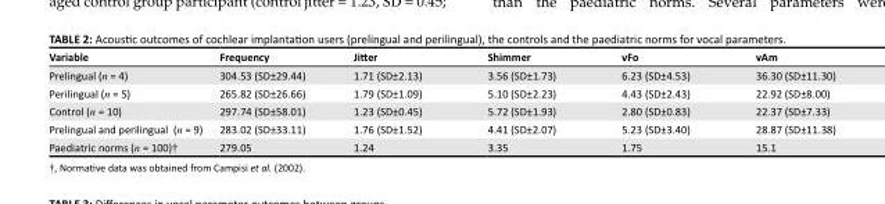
<table><thead><tr><td>Variable</td><td>Frequency</td><td>Jitter</td><td>Shimmer</td><td>vFo</td><td>vAm</td></tr></thead><tbody><tr><td>Prelingual (n = 4)</td><td>304.53 (SD±29.44)</td><td>1.71 (SD±2.13)</td><td>3.56 (SD±1.73)</td><td>6.23 (SD±4.53)</td><td>36.30 (SD±11.30)</td></tr><tr><td>Perilingual (n = 5)</td><td>265.82 (SD±26.66)</td><td>1.79 (SD±1.09)</td><td>5.10 (SD±2.23)</td><td>4.43 (SD±2.43)</td><td>22.92 (SD±8.00)</td></tr><tr><td>Control (n = 10)</td><td>297.74 (SD±58.01)</td><td>1.23 (SD±0.45)</td><td>5.72 (SD±1.93)</td><td>2.80 (SD±0.83)</td><td>22.37 (SD±7.33)</td></tr><tr><td>Prelingual and perilingual (n = 9)</td><td>283.02 (SD±33.11)</td><td>1.76 (SD±1.52)</td><td>4.41 (SD±2.07)</td><td>5.23 (SD±3.40)</td><td>28.87 (SD±11.38)</td></tr><tr><td>Paediatric norms (n = 100)†</td><td>279.05</td><td>1.24</td><td>3.35</td><td>1.75</td><td>15.1</td></tr></tbody></table>